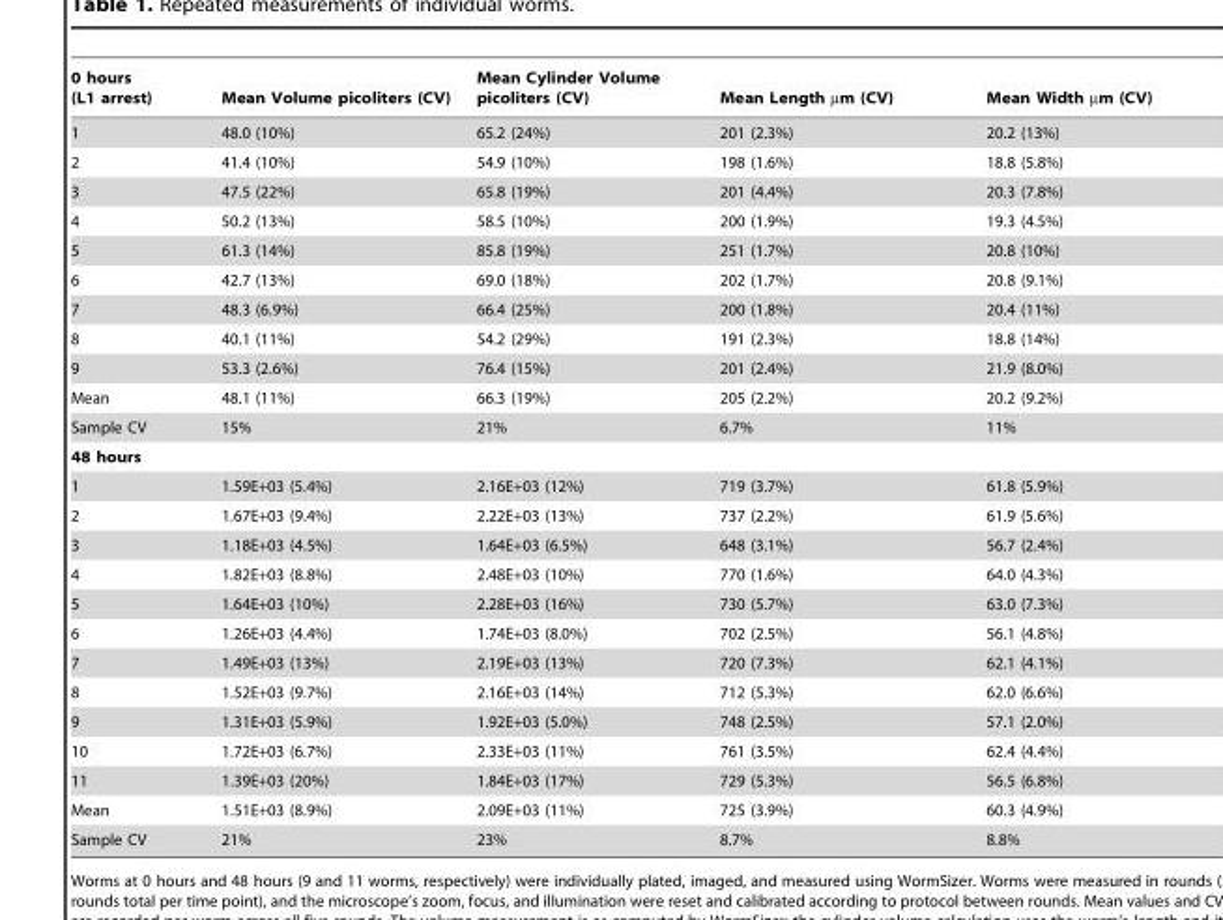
<table><thead><tr><td>0 hours (L1 arrest)</td><td>Mean Volume picoliters (CV)</td><td>Mean Cylinder Volume picoliters (CV)</td><td>Mean Length µm (CV)</td><td>Mean Width µm (CV)</td></tr></thead><tbody><tr><td>1</td><td>48.0 (10%)</td><td>65.2 (24%)</td><td>201 (2.3%)</td><td>20.2 (13%)</td></tr><tr><td>2</td><td>41.4 (10%)</td><td>54.9 (10%)</td><td>198 (1.6%)</td><td>18.8 (5.8%)</td></tr><tr><td>3</td><td>47.5 (22%)</td><td>65.8 (19%)</td><td>201 (4.4%)</td><td>20.3 (7.8%)</td></tr><tr><td>4</td><td>50.2 (13%)</td><td>58.5 (10%)</td><td>200 (1.9%)</td><td>19.3 (4.5%)</td></tr><tr><td>5</td><td>61.3 (14%)</td><td>85.8 (19%)</td><td>251 (1.7%)</td><td>20.8 (10%)</td></tr><tr><td>6</td><td>42.7 (13%)</td><td>69.0 (18%)</td><td>202 (1.7%)</td><td>20.8 (9.1%)</td></tr><tr><td>7</td><td>48.3 (6.9%)</td><td>66.4 (25%)</td><td>200 (1.8%)</td><td>20.4 (11%)</td></tr><tr><td>8</td><td>40.1 (11%)</td><td>54.2 (29%)</td><td>191 (2.3%)</td><td>18.8 (14%)</td></tr><tr><td>9</td><td>53.3 (2.6%)</td><td>76.4 (15%)</td><td>201 (2.4%)</td><td>21.9 (8.0%)</td></tr><tr><td>Mean</td><td>48.1 (11%)</td><td>66.3 (19%)</td><td>205 (2.2%)</td><td>20.2 (9.2%)</td></tr><tr><td>Sample CV</td><td>15%</td><td>21%</td><td>6.7%</td><td>11%</td></tr><tr><td colspan="5">48 hours</td></tr><tr><td>1</td><td>1.59E+03 (5.4%)</td><td>2.16E+03 (12%)</td><td>719 (3.7%)</td><td>61.8 (5.9%)</td></tr><tr><td>2</td><td>1.67E+03 (9.4%)</td><td>2.22E+03 (13%)</td><td>737 (2.2%)</td><td>61.9 (5.6%)</td></tr><tr><td>3</td><td>1.18E+03 (4.5%)</td><td>1.64E+03 (6.5%)</td><td>648 (3.1%)</td><td>56.7 (2.4%)</td></tr><tr><td>4</td><td>1.82E+03 (8.8%)</td><td>2.48E+03 (10%)</td><td>770 (1.6%)</td><td>64.0 (4.3%)</td></tr><tr><td>5</td><td>1.64E+03 (10%)</td><td>2.28E+03 (16%)</td><td>730 (5.7%)</td><td>63.0 (7.3%)</td></tr><tr><td>6</td><td>1.26E+03 (4.4%)</td><td>1.74E+03 (8.0%)</td><td>702 (2.5%)</td><td>56.1 (4.8%)</td></tr><tr><td>7</td><td>1.49E+03 (13%)</td><td>2.19E+03 (13%)</td><td>720 (7.3%)</td><td>62.1 (4.1%)</td></tr><tr><td>8</td><td>1.52E+03 (9.7%)</td><td>2.16E+03 (14%)</td><td>712 (5.3%)</td><td>62.0 (6.6%)</td></tr><tr><td>9</td><td>1.31E+03 (5.9%)</td><td>1.92E+03 (5.0%)</td><td>748 (2.5%)</td><td>57.1 (2.0%)</td></tr><tr><td>10</td><td>1.72E+03 (6.7%)</td><td>2.33E+03 (11%)</td><td>761 (3.5%)</td><td>62.4 (4.4%)</td></tr><tr><td>11</td><td>1.39E+03 (20%)</td><td>1.84E+03 (17%)</td><td>729 (5.3%)</td><td>56.5 (6.8%)</td></tr><tr><td>Mean</td><td>1.51E+03 (8.9%)</td><td>2.09E+03 (11%)</td><td>725 (3.9%)</td><td>60.3 (4.9%)</td></tr><tr><td>Sample CV</td><td>21%</td><td>23%</td><td>8.7%</td><td>8.8%</td></tr></tbody></table>